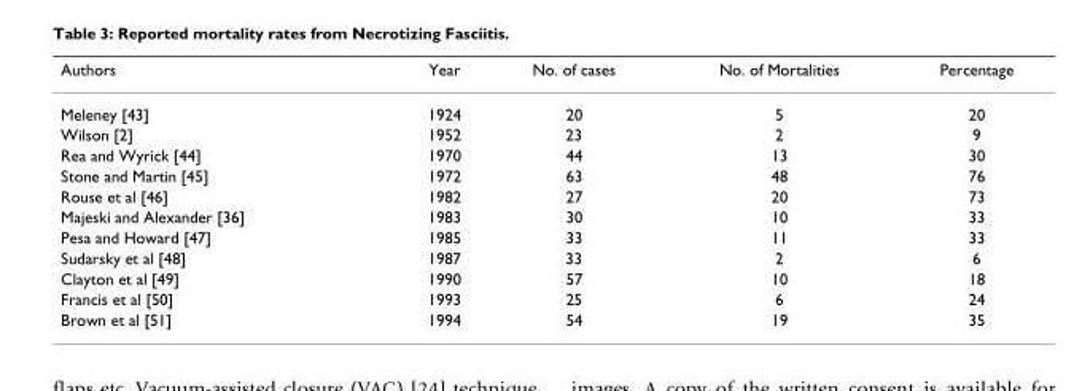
<table><thead><tr><td>Authors</td><td>Year</td><td>No. of cases</td><td>No. of Mortalities</td><td>Percentage</td></tr></thead><tbody><tr><td>Meleney [43]</td><td>1924</td><td>20</td><td>5</td><td>20</td></tr><tr><td>Wilson [2]</td><td>1952</td><td>23</td><td>2</td><td>9</td></tr><tr><td>Rea and Wyrick [44]</td><td>1970</td><td>44</td><td>13</td><td>30</td></tr><tr><td>Stone and Martin [45]</td><td>1972</td><td>63</td><td>48</td><td>76</td></tr><tr><td>Rouse et al [46]</td><td>1982</td><td>27</td><td>20</td><td>73</td></tr><tr><td>Majeski and Alexander [36]</td><td>1983</td><td>30</td><td>10</td><td>33</td></tr><tr><td>Pesa and Howard [47]</td><td>1985</td><td>33</td><td>11</td><td>33</td></tr><tr><td>Sudarsky et al [48]</td><td>1987</td><td>33</td><td>2</td><td>6</td></tr><tr><td>Clayton et al [49]</td><td>1990</td><td>57</td><td>10</td><td>18</td></tr><tr><td>Francis et al [50]</td><td>1993</td><td>25</td><td>6</td><td>24</td></tr><tr><td>Brown et al [51]</td><td>1994</td><td>54</td><td>19</td><td>35</td></tr></tbody></table>